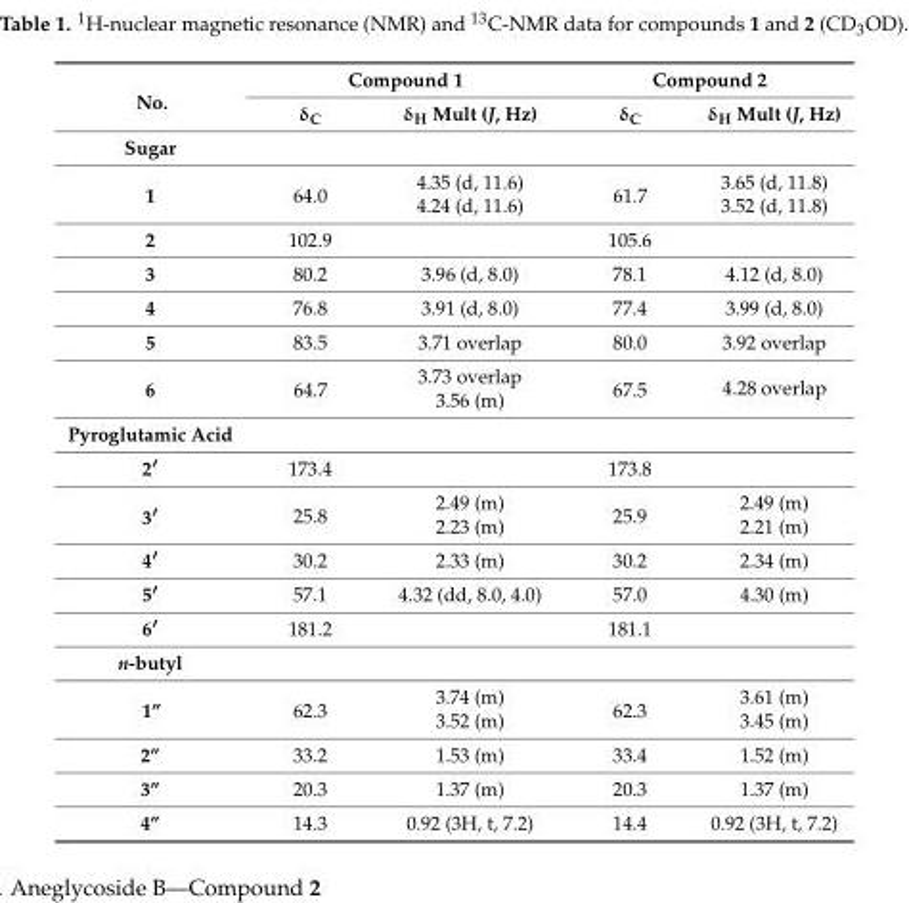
<table><thead><tr><td rowspan="2">No.</td><td colspan="2">Compound 1</td><td colspan="2">Compound 2</td></tr><tr><td>δ<sub>C</sub></td><td>δ<sub>H</sub> Mult (J, Hz)</td><td>δ<sub>C</sub></td><td>δ<sub>H</sub> Mult (J, Hz)</td></tr></thead><tbody><tr><td colspan="5">Sugar</td></tr><tr><td rowspan="2">1</td><td rowspan="2">64.0</td><td>4.35 (d, 11.6)</td><td rowspan="2">61.7</td><td>3.65 (d, 11.8)</td></tr><tr><td>4.24 (d, 11.6)</td><td>3.52 (d, 11.8)</td></tr><tr><td>2</td><td>102.9</td><td></td><td>105.6</td><td></td></tr><tr><td>3</td><td>80.2</td><td>3.96 (d, 8.0)</td><td>78.1</td><td>4.12 (d, 8.0)</td></tr><tr><td>4</td><td>76.8</td><td>3.91 (d, 8.0)</td><td>77.4</td><td>3.99 (d, 8.0)</td></tr><tr><td>5</td><td>83.5</td><td>3.71 overlap</td><td>80.0</td><td>3.92 overlap</td></tr><tr><td rowspan="2">6</td><td rowspan="2">64.7</td><td>3.73 overlap</td><td rowspan="2">67.5</td><td rowspan="2">4.28 overlap</td></tr><tr><td>3.56 (m)</td></tr><tr><td colspan="5">Pyroglutamic Acid</td></tr><tr><td>2′</td><td>173.4</td><td></td><td>173.8</td><td></td></tr><tr><td rowspan="2">3′</td><td rowspan="2">25.8</td><td>2.49 (m)</td><td rowspan="2">25.9</td><td>2.49 (m)</td></tr><tr><td>2.23 (m)</td><td>2.21 (m)</td></tr><tr><td>4′</td><td>30.2</td><td>2.33 (m)</td><td>30.2</td><td>2.34 (m)</td></tr><tr><td>5′</td><td>57.1</td><td>4.32 (dd, 8.0, 4.0)</td><td>57.0</td><td>4.30 (m)</td></tr><tr><td>6′</td><td>181.2</td><td></td><td>181.1</td><td></td></tr><tr><td colspan="5">n-butyl</td></tr><tr><td rowspan="2">1”</td><td rowspan="2">62.3</td><td>3.74 (m)</td><td rowspan="2">62.3</td><td>3.61 (m)</td></tr><tr><td>3.52 (m)</td><td>3.45 (m)</td></tr><tr><td>2”</td><td>33.2</td><td>1.53 (m)</td><td>33.4</td><td>1.52 (m)</td></tr><tr><td>3”</td><td>20.3</td><td>1.37 (m)</td><td>20.3</td><td>1.37 (m)</td></tr><tr><td>4”</td><td>14.3</td><td>0.92 (3H, t, 7.2)</td><td>14.4</td><td>0.92 (3H, t, 7.2)</td></tr></tbody></table>